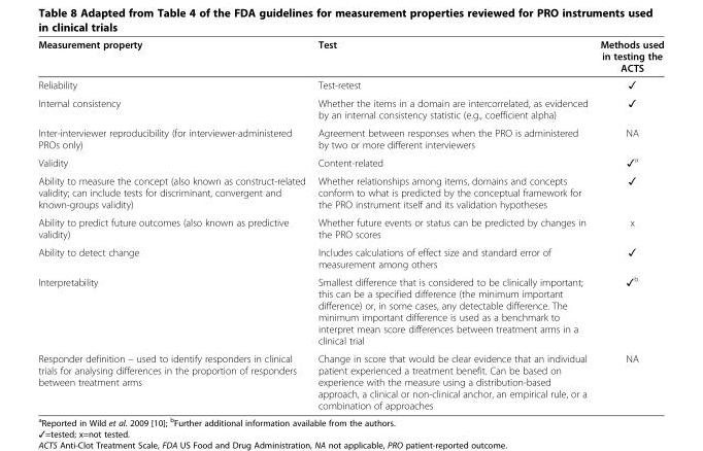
<table><thead><tr><td>Measurement property</td><td>Test</td><td>Methods used in testing the ACTS</td></tr></thead><tbody><tr><td>Reliability</td><td>Test-retest</td><td>✓</td></tr><tr><td>Internal consistency</td><td>Whether the items in a domain are intercorrelated, as evidenced by an internal consistency statistic (e.g., coefficient alpha)</td><td>✓</td></tr><tr><td>Inter-interviewer reproducibility (for interviewer-administered PROs only)</td><td>Agreement between responses when the PRO is administered by two or more different interviewers</td><td>NA</td></tr><tr><td>Validity</td><td>Content-related</td><td>✓<sup>a</sup></td></tr><tr><td>Ability to measure the concept (also known as construct-related validity; can include tests for discriminant, convergent and known-groups validity)</td><td>Whether relationships among items, domains and concepts conform to what is predicted by the conceptual framework for the PRO instrument itself and its validation hypotheses</td><td>✓</td></tr><tr><td>Ability to predict future outcomes (also known as predictive validity)</td><td>Whether future events or status can be predicted by changes in the PRO scores</td><td>x</td></tr><tr><td>Ability to detect change</td><td>Includes calculations of effect size and standard error of measurement among others</td><td>✓</td></tr><tr><td>Interpretability</td><td>Smallest difference that is considered to be clinically important; this can be a specified difference (the minimum important difference) or, in some cases, any detectable difference. The minimum important difference is used as a benchmark to interpret mean score differences between treatment arms in a clinical trial</td><td>✓<sup>b</sup></td></tr><tr><td>Responder definition – used to identify responders in clinical trials for analysing differences in the proportion of responders between treatment arms</td><td>Change in score that would be clear evidence that an individual patient experienced a treatment benefit. Can be based on experience with the measure using a distribution-based approach, a clinical or non-clinical anchor, an empirical rule, or a combination of approaches</td><td>NA</td></tr></tbody></table>